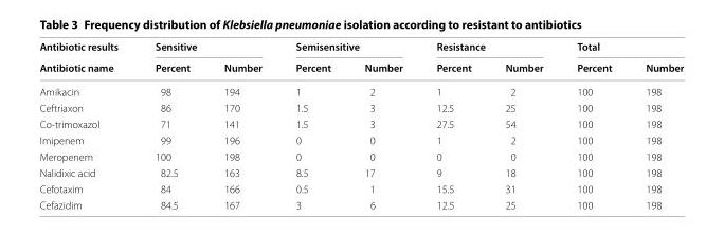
<table><thead><tr><td rowspan="2">Antibiotic results Antibiotic name</td><td colspan="2">Sensitive</td><td colspan="2">Semisensitive</td><td colspan="2">Resistance</td><td colspan="2">Total</td></tr><tr><td>Percent</td><td>Number</td><td>Percent</td><td>Number</td><td>Percent</td><td>Number</td><td>Percent</td><td>Number</td></tr></thead><tbody><tr><td>Amikacin</td><td>98</td><td>194</td><td>1</td><td>2</td><td>1</td><td>2</td><td>100</td><td>198</td></tr><tr><td>Ceftriaxon</td><td>86</td><td>170</td><td>1.5</td><td>3</td><td>12.5</td><td>25</td><td>100</td><td>198</td></tr><tr><td>Co-trimoxazol</td><td>71</td><td>141</td><td>1.5</td><td>3</td><td>27.5</td><td>54</td><td>100</td><td>198</td></tr><tr><td>Imipenem</td><td>99</td><td>196</td><td>0</td><td>0</td><td>1</td><td>2</td><td>100</td><td>198</td></tr><tr><td>Meropenem</td><td>100</td><td>198</td><td>0</td><td>0</td><td>0</td><td>0</td><td>100</td><td>198</td></tr><tr><td>Nalidixic acid</td><td>82.5</td><td>163</td><td>8.5</td><td>17</td><td>9</td><td>18</td><td>100</td><td>198</td></tr><tr><td>Cefotaxim</td><td>84</td><td>166</td><td>0.5</td><td>1</td><td>15.5</td><td>31</td><td>100</td><td>198</td></tr><tr><td>Cefazidim</td><td>84.5</td><td>167</td><td>3</td><td>6</td><td>12.5</td><td>25</td><td>100</td><td>198</td></tr></tbody></table>